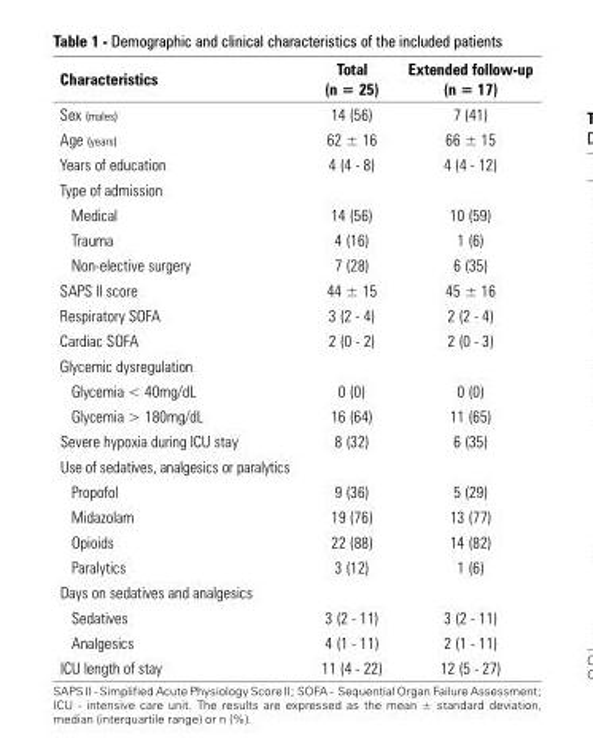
<table><thead><tr><td>Characteristics</td><td>Total (n = 25)</td><td>Extended follow-up (n = 17)</td></tr></thead><tbody><tr><td>Sex (males)</td><td>14 (56)</td><td>7 (41)</td></tr><tr><td>Age (years)</td><td>62 ± 16</td><td>66 ± 15</td></tr><tr><td>Years of education</td><td>4 (4 - 8)</td><td>4 (4 - 12)</td></tr><tr><td colspan="3">Type of admission</td></tr><tr><td>Medical</td><td>14 (56)</td><td>10 (59)</td></tr><tr><td>Trauma</td><td>4 (16)</td><td>1 (6)</td></tr><tr><td>Non-elective surgery</td><td>7 (28)</td><td>6 (35)</td></tr><tr><td>SAPS II score</td><td>44 ± 15</td><td>45 ± 16</td></tr><tr><td>Respiratory SOFA</td><td>3 (2 - 4)</td><td>2 (2 - 4)</td></tr><tr><td>Cardiac SOFA</td><td>2 (0 - 2)</td><td>2 (0 - 3)</td></tr><tr><td colspan="3">Glycemic dysregulation</td></tr><tr><td>Glycemia &lt; 40mg/dL</td><td>0 (0)</td><td>0 (0)</td></tr><tr><td>Glycemia &gt; 180mg/dL</td><td>16 (64)</td><td>11 (65)</td></tr><tr><td>Severe hypoxia during ICU stay</td><td>8 (32)</td><td>6 (35)</td></tr><tr><td colspan="3">Use of sedatives, analgesics or paralytics</td></tr><tr><td>Propofol</td><td>9 (36)</td><td>5 (29)</td></tr><tr><td>Midazolam</td><td>19 (76)</td><td>13 (77)</td></tr><tr><td>Opioids</td><td>22 (88)</td><td>14 (82)</td></tr><tr><td>Paralytics</td><td>3 (12)</td><td>1 (6)</td></tr><tr><td colspan="3">Days on sedatives and analgesics</td></tr><tr><td>Sedatives</td><td>3 (2 - 11)</td><td>3 (2 - 11)</td></tr><tr><td>Analgesics</td><td>4 (1 - 11)</td><td>2 (1 - 11)</td></tr><tr><td>ICU length of stay</td><td>11 (4 - 22)</td><td>12 (5 - 27)</td></tr></tbody></table>